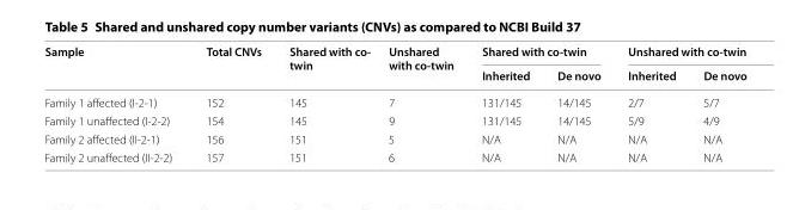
<table><thead><tr><td rowspan="2">Sample</td><td rowspan="2">Total CNVs</td><td rowspan="2">Shared with co- twin</td><td rowspan="2">Unshared with co-twin</td><td colspan="2">Shared with co-twin</td><td colspan="2">Unshared with co-twin</td></tr><tr><td>Inherited</td><td>De novo</td><td>Inherited</td><td>De novo</td></tr></thead><tbody><tr><td>Family 1 affected (I-2-1)</td><td>152</td><td>145</td><td>7</td><td>131/145</td><td>14/145</td><td>2/7</td><td>5/7</td></tr><tr><td>Family 1 unaffected (I-2-2)</td><td>154</td><td>145</td><td>9</td><td>131/145</td><td>14/145</td><td>5/9</td><td>4/9</td></tr><tr><td>Family 2 affected (II-2-1)</td><td>156</td><td>151</td><td>5</td><td>N/A</td><td>N/A</td><td>N/A</td><td>N/A</td></tr><tr><td>Family 2 unaffected (II-2-2)</td><td>157</td><td>151</td><td>6</td><td>N/A</td><td>N/A</td><td>N/A</td><td>N/A</td></tr></tbody></table>